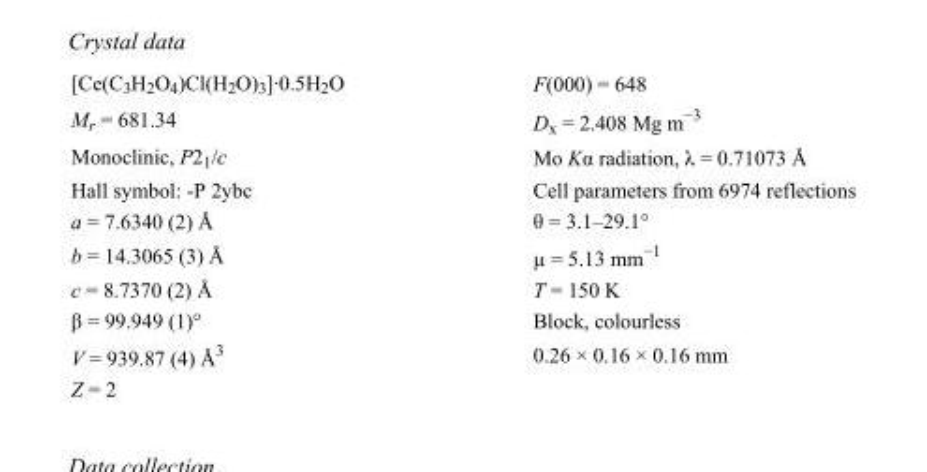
<table><tbody><tr><td>[Ce(C<sub>3</sub>H<sub>2</sub>O<sub>4</sub>)Cl(H<sub>2</sub>O)<sub>3</sub>]·0.5H<sub>2</sub>O</td><td>F(000) = 648</td></tr><tr><td>M<sub>r</sub> = 681.34</td><td>D<sub>x</sub> = 2.408 Mg m<sup>−3</sup></td></tr><tr><td>Monoclinic, P2<sub>1</sub>/c</td><td>Mo Kα radiation, λ = 0.71073 Å</td></tr><tr><td>Hall symbol: -P 2ybc</td><td>Cell parameters from 6974 reflections</td></tr><tr><td>a = 7.6340 (2) Å</td><td>θ = 3.1–29.1°</td></tr><tr><td>b = 14.3065 (3) Å</td><td>µ = 5.13 mm<sup>−1</sup></td></tr><tr><td>c = 8.7370 (2) Å</td><td>T = 150 K</td></tr><tr><td>β = 99.949 (1)°</td><td>Block, colourless</td></tr><tr><td>V = 939.87 (4) Å<sup>3</sup></td><td>0.26 × 0.16 × 0.16 mm</td></tr><tr><td>Z = 2</td><td></td></tr></tbody></table>